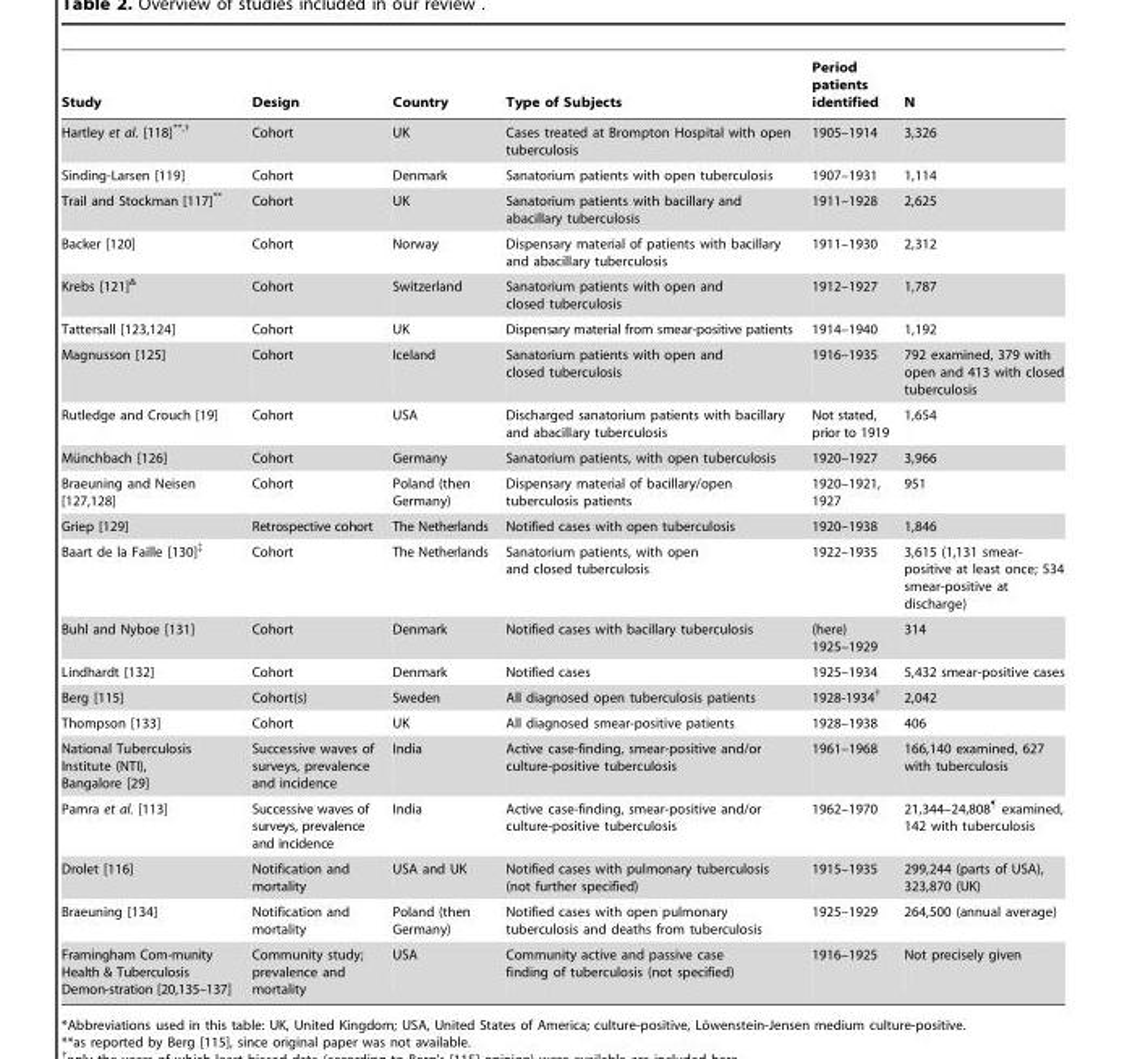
<table><thead><tr><td>Study</td><td>Design</td><td>Country</td><td>Type of Subjects</td><td>Period patients identified</td><td>N</td></tr></thead><tbody><tr><td>Hartley et al. [118]**,†</td><td>Cohort</td><td>UK</td><td>Cases treated at Brompton Hospital with open tuberculosis</td><td>1905–1914</td><td>3,326</td></tr><tr><td>Sinding-Larsen [119]</td><td>Cohort</td><td>Denmark</td><td>Sanatorium patients with open tuberculosis</td><td>1907–1931</td><td>1,114</td></tr><tr><td>Trail and Stockman [117]**</td><td>Cohort</td><td>UK</td><td>Sanatorium patients with bacillary and abacillary tuberculosis</td><td>1911–1928</td><td>2,625</td></tr><tr><td>Backer [120]</td><td>Cohort</td><td>Norway</td><td>Dispensary material of patients with bacillary and abacillary tuberculosis</td><td>1911–1930</td><td>2,312</td></tr><tr><td>Krebs [121]&amp;</td><td>Cohort</td><td>Switzerland</td><td>Sanatorium patients with open and closed tuberculosis</td><td>1912–1927</td><td>1,787</td></tr><tr><td>Tattersall [123,124]</td><td>Cohort</td><td>UK</td><td>Dispensary material from smear-positive patients</td><td>1914–1940</td><td>1,192</td></tr><tr><td>Magnusson [125]</td><td>Cohort</td><td>Iceland</td><td>Sanatorium patients with open and closed tuberculosis</td><td>1916–1935</td><td>792 examined, 379 with open and 413 with closed tuberculosis</td></tr><tr><td>Rutledge and Crouch [19]</td><td>Cohort</td><td>USA</td><td>Discharged sanatorium patients with bacillary and abacillary tuberculosis</td><td>Not stated, prior to 1919</td><td>1,654</td></tr><tr><td>Mu¨nchbach [126]</td><td>Cohort</td><td>Germany</td><td>Sanatorium patients, with open tuberculosis</td><td>1920–1927</td><td>3,966</td></tr><tr><td>Braeuning and Neisen [127,128]</td><td>Cohort</td><td>Poland (then Germany)</td><td>Dispensary material of bacillary/open tuberculosis patients</td><td>1920–1921, 1927</td><td>951</td></tr><tr><td>Griep [129]</td><td>Retrospective cohort</td><td>The Netherlands</td><td>Notified cases with open tuberculosis</td><td>1920–1938</td><td>1,846</td></tr><tr><td>Baart de la Faille [130]‡</td><td>Cohort</td><td>The Netherlands</td><td>Sanatorium patients, with open and closed tuberculosis</td><td>1922–1935</td><td>3,615 (1,131 smear- positive at least once; 534 smear-positive at discharge)</td></tr><tr><td>Buhl and Nyboe [131]</td><td>Cohort</td><td>Denmark</td><td>Notified cases with bacillary tuberculosis</td><td>(here) 1925–1929</td><td>314</td></tr><tr><td>Lindhardt [132]</td><td>Cohort</td><td>Denmark</td><td>Notified cases</td><td>1925–1934</td><td>5,432 smear-positive cases</td></tr><tr><td>Berg [115]</td><td>Cohort(s)</td><td>Sweden</td><td>All diagnosed open tuberculosis patients</td><td>1928-1934†</td><td>2,042</td></tr><tr><td>Thompson [133]</td><td>Cohort</td><td>UK</td><td>All diagnosed smear-positive patients</td><td>1928–1938</td><td>406</td></tr><tr><td>National Tuberculosis Institute (NTI), Bangalore [29]</td><td>Successive waves of surveys, prevalence and incidence</td><td>India</td><td>Active case-finding, smear-positive and/or culture-positive tuberculosis</td><td>1961–1968</td><td>166,140 examined, 627 with tuberculosis</td></tr><tr><td>Pamra et al. [113]</td><td>Successive waves of surveys, prevalence and incidence</td><td>India</td><td>Active case-finding, smear-positive and/or culture-positive tuberculosis</td><td>1962–1970</td><td>21,344–24,808¶ examined, 142 with tuberculosis</td></tr><tr><td>Drolet [116]</td><td>Notification and mortality</td><td>USA and UK</td><td>Notified cases with pulmonary tuberculosis (not further specified)</td><td>1915–1935</td><td>299,244 (parts of USA), 323,870 (UK)</td></tr><tr><td>Braeuning [134]</td><td>Notification and mortality</td><td>Poland (then Germany)</td><td>Notified cases with open pulmonary tuberculosis and deaths from tuberculosis</td><td>1925–1929</td><td>264,500 (annual average)</td></tr><tr><td>Framingham Com-munity Health &amp; Tuberculosis Demon-stration [20,135–137]</td><td>Community study; prevalence and mortality</td><td>USA</td><td>Community active and passive case finding of tuberculosis (not specified)</td><td>1916–1925</td><td>Not precisely given</td></tr></tbody></table>